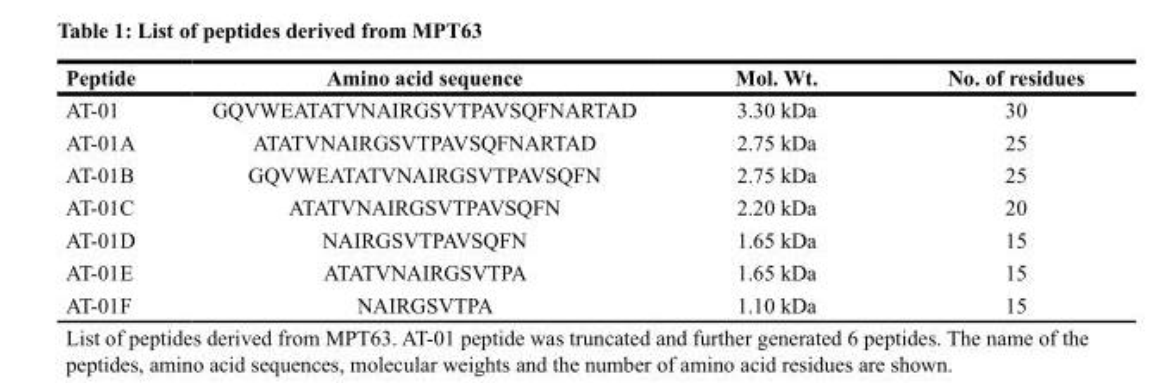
<table><thead><tr><td>Peptide</td><td>Amino acid sequence</td><td>Mol. Wt.</td><td>No. of residues</td></tr></thead><tbody><tr><td>AT-01</td><td>GQVWEATATVNAIRGSVTPAVSQFNARTAD</td><td>3.30 kDa</td><td>30</td></tr><tr><td>AT-01A</td><td>ATATVNAIRGSVTPAVSQFNARTAD</td><td>2.75 kDa</td><td>25</td></tr><tr><td>AT-01B</td><td>GQVWEATATVNAIRGSVTPAVSQFN</td><td>2.75 kDa</td><td>25</td></tr><tr><td>AT-01C</td><td>ATATVNAIRGSVTPAVSQFN</td><td>2.20 kDa</td><td>20</td></tr><tr><td>AT-01D</td><td>NAIRGSVTPAVSQFN</td><td>1.65 kDa</td><td>15</td></tr><tr><td>AT-01E</td><td>ATATVNAIRGSVTPA</td><td>1.65 kDa</td><td>15</td></tr><tr><td>AT-01F</td><td>NAIRGSVTPA</td><td>1.10 kDa</td><td>15</td></tr></tbody></table>